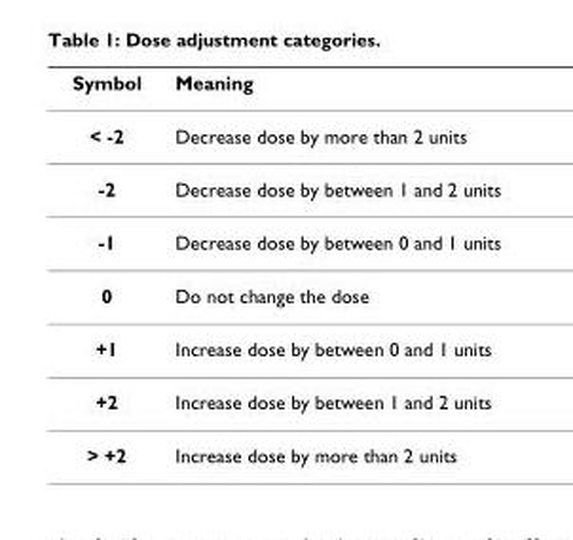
<table><thead><tr><td>Symbol</td><td>Meaning</td></tr></thead><tbody><tr><td>&lt; -2</td><td>Decrease dose by more than 2 units</td></tr><tr><td>-2</td><td>Decrease dose by between 1 and 2 units</td></tr><tr><td>-1</td><td>Decrease dose by between 0 and 1 units</td></tr><tr><td>0</td><td>Do not change the dose</td></tr><tr><td>+1</td><td>Increase dose by between 0 and 1 units</td></tr><tr><td>+2</td><td>Increase dose by between 1 and 2 units</td></tr><tr><td>&gt; +2</td><td>Increase dose by more than 2 units</td></tr></tbody></table>